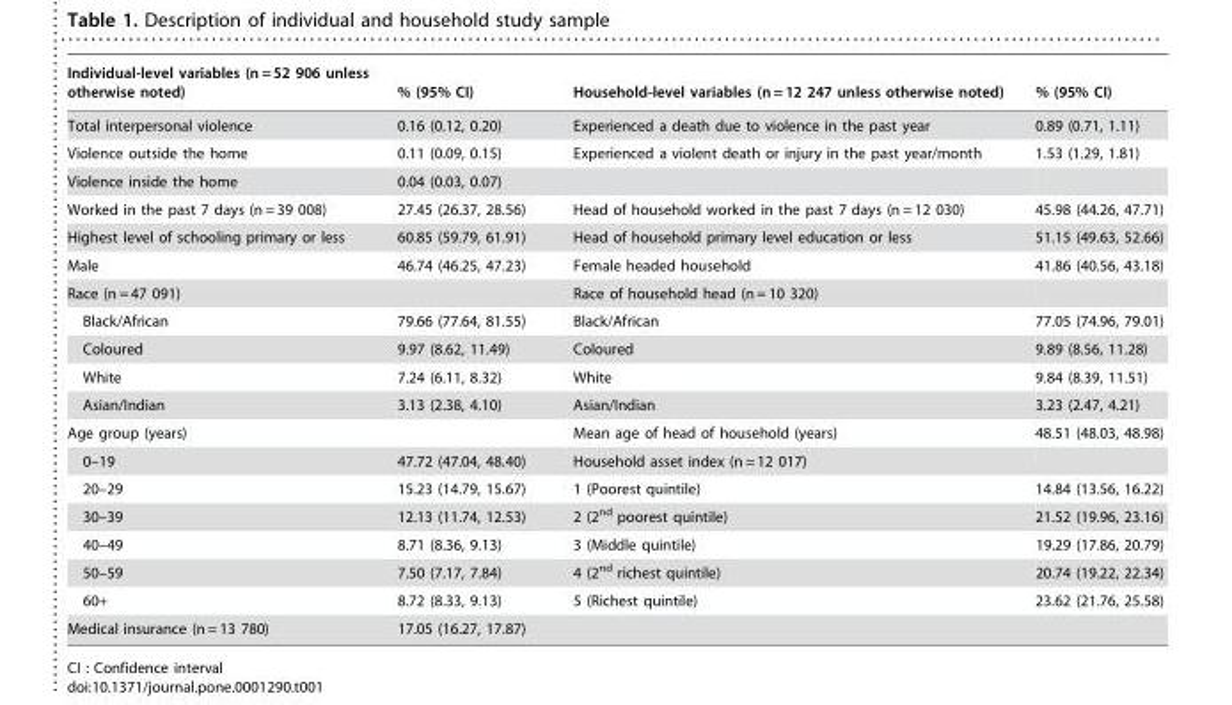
<table><thead><tr><td>Individual-level variables (n = 52 906 unless otherwise noted)</td><td>% (95% CI)</td><td>Household-level variables (n = 12 247 unless otherwise noted)</td><td>% (95% CI)</td></tr></thead><tbody><tr><td>Total interpersonal violence</td><td>0.16 (0.12, 0.20)</td><td>Experienced a death due to violence in the past year</td><td>0.89 (0.71, 1.11)</td></tr><tr><td>Violence outside the home</td><td>0.11 (0.09, 0.15)</td><td>Experienced a violent death or injury in the past year/month</td><td>1.53 (1.29, 1.81)</td></tr><tr><td>Violence inside the home</td><td>0.04 (0.03, 0.07)</td><td></td><td></td></tr><tr><td>Worked in the past 7 days (n = 39 008)</td><td>27.45 (26.37, 28.56)</td><td>Head of household worked in the past 7 days (n = 12 030)</td><td>45.98 (44.26, 47.71)</td></tr><tr><td>Highest level of schooling primary or less</td><td>60.85 (59.79, 61.91)</td><td>Head of household primary level education or less</td><td>51.15 (49.63, 52.66)</td></tr><tr><td>Male</td><td>46.74 (46.25, 47.23)</td><td>Female headed household</td><td>41.86 (40.56, 43.18)</td></tr><tr><td>Race (n = 47 091)</td><td></td><td>Race of household head (n = 10 320)</td><td></td></tr><tr><td>Black/African</td><td>79.66 (77.64, 81.55)</td><td>Black/African</td><td>77.05 (74.96, 79.01)</td></tr><tr><td>Coloured</td><td>9.97 (8.62, 11.49)</td><td>Coloured</td><td>9.89 (8.56, 11.28)</td></tr><tr><td>White</td><td>7.24 (6.11, 8.32)</td><td>White</td><td>9.84 (8.39, 11.51)</td></tr><tr><td>Asian/Indian</td><td>3.13 (2.38, 4.10)</td><td>Asian/Indian</td><td>3.23 (2.47, 4.21)</td></tr><tr><td>Age group (years)</td><td></td><td>Mean age of head of household (years)</td><td>48.51 (48.03, 48.98)</td></tr><tr><td>0–19</td><td>47.72 (47.04, 48.40)</td><td>Household asset index (n = 12 017)</td><td></td></tr><tr><td>20–29</td><td>15.23 (14.79, 15.67)</td><td>1 (Poorest quintile)</td><td>14.84 (13.56, 16.22)</td></tr><tr><td>30–39</td><td>12.13 (11.74, 12.53)</td><td>2 (2<sup>nd</sup> poorest quintile)</td><td>21.52 (19.96, 23.16)</td></tr><tr><td>40–49</td><td>8.71 (8.36, 9.13)</td><td>3 (Middle quintile)</td><td>19.29 (17.86, 20.79)</td></tr><tr><td>50–59</td><td>7.50 (7.17, 7.84)</td><td>4 (2<sup>nd</sup> richest quintile)</td><td>20.74 (19.22, 22.34)</td></tr><tr><td>60+</td><td>8.72 (8.33, 9.13)</td><td>5 (Richest quintile)</td><td>23.62 (21.76, 25.58)</td></tr><tr><td>Medical insurance (n = 13 780)</td><td>17.05 (16.27, 17.87)</td><td></td><td></td></tr></tbody></table>